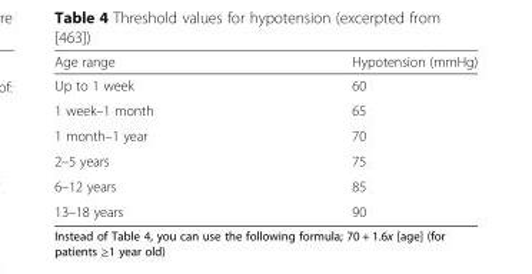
<table><thead><tr><td>Age range</td><td>Hypotension (mmHg)</td></tr></thead><tbody><tr><td>Up to 1 week</td><td>60</td></tr><tr><td>1 week–1 month</td><td>65</td></tr><tr><td>1 month–1 year</td><td>70</td></tr><tr><td>2–5 years</td><td>75</td></tr><tr><td>6–12 years</td><td>85</td></tr><tr><td>13–18 years</td><td>90</td></tr></tbody></table>